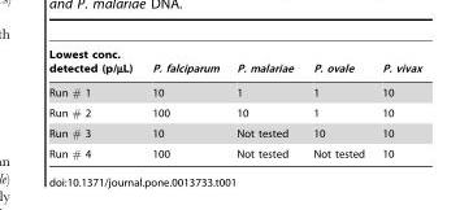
<table><thead><tr><td>Lowest conc. detected (p/µL)</td><td>P. falciparum</td><td>P. malariae</td><td>P. ovale</td><td>P. vivax</td></tr></thead><tbody><tr><td>Run # 1</td><td>10</td><td>1</td><td>1</td><td>10</td></tr><tr><td>Run # 2</td><td>100</td><td>10</td><td>1</td><td>10</td></tr><tr><td>Run # 3</td><td>10</td><td>Not tested</td><td>10</td><td>10</td></tr><tr><td>Run # 4</td><td>100</td><td>Not tested</td><td>Not tested</td><td>10</td></tr></tbody></table>